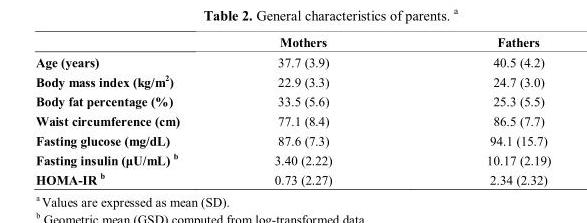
<table><thead><tr><td></td><td>Mothers</td><td>Fathers</td></tr></thead><tbody><tr><td>Age (years)</td><td>37.7 (3.9)</td><td>40.5 (4.2)</td></tr><tr><td>Body mass index (kg/m<sup>2</sup>)</td><td>22.9 (3.3)</td><td>24.7 (3.0)</td></tr><tr><td>Body fat percentage (%)</td><td>33.5 (5.6)</td><td>25.3 (5.5)</td></tr><tr><td>Waist circumference (cm)</td><td>77.1 (8.4)</td><td>86.5 (7.7)</td></tr><tr><td>Fasting glucose (mg/dL)</td><td>87.6 (7.3)</td><td>94.1 (15.7)</td></tr><tr><td>Fasting insulin (μU/mL) <sup>b</sup></td><td>3.40 (2.22)</td><td>10.17 (2.19)</td></tr><tr><td>HOMA-IR <sup>b</sup></td><td>0.73 (2.27)</td><td>2.34 (2.32)</td></tr></tbody></table>